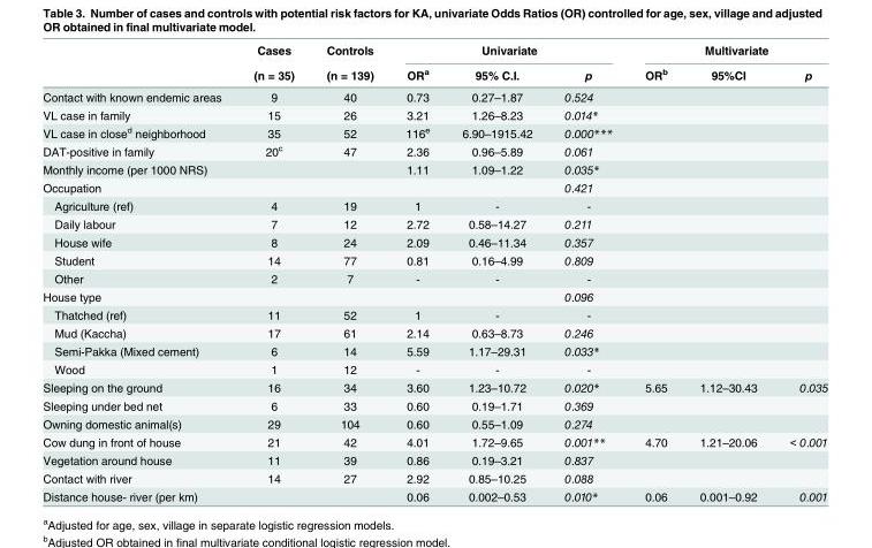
<table><thead><tr><td rowspan="2"></td><td rowspan="2">Cases (n = 35)</td><td rowspan="2">Controls (n = 139)</td><td colspan="3">Univariate</td><td colspan="3">Multivariate</td></tr><tr><td>OR<sup>a</sup></td><td>95% C.I.</td><td>p</td><td>OR<sup>b</sup></td><td>95%CI</td><td>p</td></tr></thead><tbody><tr><td>Contact with known endemic areas</td><td>9</td><td>40</td><td>0.73</td><td>0.27–1.87</td><td>0.524</td><td></td><td></td><td></td></tr><tr><td>VL case in family</td><td>15</td><td>26</td><td>3.21</td><td>1.26–8.23</td><td>0.014*</td><td></td><td></td><td></td></tr><tr><td>VL case in close<sup>d</sup> neighborhood</td><td>35</td><td>52</td><td>116<sup>e</sup></td><td>6.90–1915.42</td><td>0.000***</td><td></td><td></td><td></td></tr><tr><td>DAT-positive in family</td><td>20<sup>c</sup></td><td>47</td><td>2.36</td><td>0.96–5.89</td><td>0.061</td><td></td><td></td><td></td></tr><tr><td>Monthly income (per 1000 NRS)</td><td></td><td></td><td>1.11</td><td>1.09–1.22</td><td>0.035*</td><td></td><td></td><td></td></tr><tr><td>Occupation</td><td></td><td></td><td></td><td></td><td>0.421</td><td></td><td></td><td></td></tr><tr><td>Agriculture (ref)</td><td>4</td><td>19</td><td>1</td><td>-</td><td>-</td><td></td><td></td><td></td></tr><tr><td>Daily labour</td><td>7</td><td>12</td><td>2.72</td><td>0.58–14.27</td><td>0.211</td><td></td><td></td><td></td></tr><tr><td>House wife</td><td>8</td><td>24</td><td>2.09</td><td>0.46–11.34</td><td>0.357</td><td></td><td></td><td></td></tr><tr><td>Student</td><td>14</td><td>77</td><td>0.81</td><td>0.16–4.99</td><td>0.809</td><td></td><td></td><td></td></tr><tr><td>Other</td><td>2</td><td>7</td><td>-</td><td>-</td><td>-</td><td></td><td></td><td></td></tr><tr><td>House type</td><td></td><td></td><td></td><td></td><td>0.096</td><td></td><td></td><td></td></tr><tr><td>Thatched (ref)</td><td>11</td><td>52</td><td>1</td><td>-</td><td>-</td><td></td><td></td><td></td></tr><tr><td>Mud (Kaccha)</td><td>17</td><td>61</td><td>2.14</td><td>0.63–8.73</td><td>0.246</td><td></td><td></td><td></td></tr><tr><td>Semi-Pakka (Mixed cement)</td><td>6</td><td>14</td><td>5.59</td><td>1.17–29.31</td><td>0.033*</td><td></td><td></td><td></td></tr><tr><td>Wood</td><td>1</td><td>12</td><td>-</td><td>-</td><td>-</td><td></td><td></td><td></td></tr><tr><td>Sleeping on the ground</td><td>16</td><td>34</td><td>3.60</td><td>1.23–10.72</td><td>0.020*</td><td>5.65</td><td>1.12–30.43</td><td>0.035</td></tr><tr><td>Sleeping under bed net</td><td>6</td><td>33</td><td>0.60</td><td>0.19–1.71</td><td>0.369</td><td></td><td></td><td></td></tr><tr><td>Owning domestic animal(s)</td><td>29</td><td>104</td><td>0.60</td><td>0.55–1.09</td><td>0.274</td><td></td><td></td><td></td></tr><tr><td>Cow dung in front of house</td><td>21</td><td>42</td><td>4.01</td><td>1.72–9.65</td><td>0.001**</td><td>4.70</td><td>1.21–20.06</td><td>&lt; 0.001</td></tr><tr><td>Vegetation around house</td><td>11</td><td>39</td><td>0.86</td><td>0.19–3.21</td><td>0.837</td><td></td><td></td><td></td></tr><tr><td>Contact with river</td><td>14</td><td>27</td><td>2.92</td><td>0.85–10.25</td><td>0.088</td><td></td><td></td><td></td></tr><tr><td>Distance house- river (per km)</td><td></td><td></td><td>0.06</td><td>0.002–0.53</td><td>0.010*</td><td>0.06</td><td>0.001–0.92</td><td>0.001</td></tr></tbody></table>